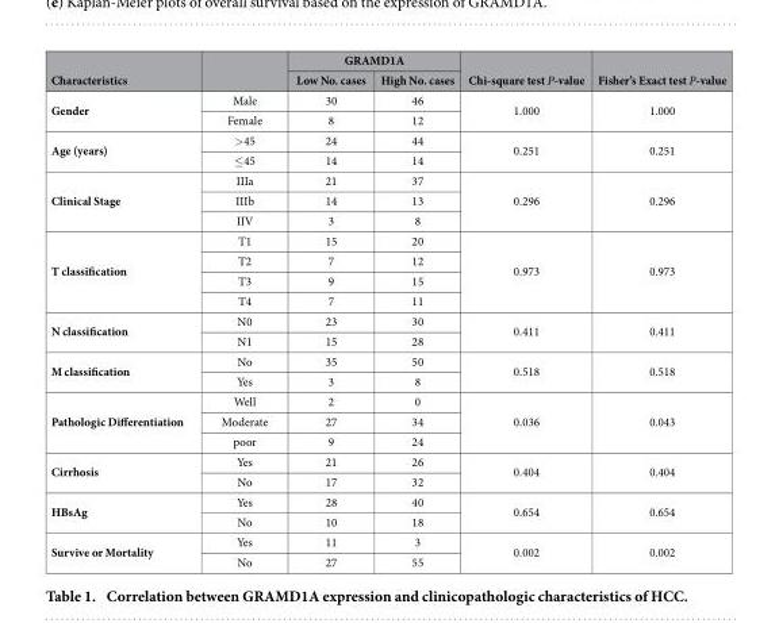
<table><thead><tr><td rowspan="2">Characteristics</td><td rowspan="2"></td><td colspan="2">GRAMD1A</td><td rowspan="2">Chi-square test P-value</td><td rowspan="2">Fisher’s Exact test P-value</td></tr><tr><td>Low No. cases</td><td>High No. cases</td></tr></thead><tbody><tr><td rowspan="2">Gender</td><td>Male</td><td>30</td><td>46</td><td rowspan="2">1.000</td><td rowspan="2">1.000</td></tr><tr><td>Female</td><td>8</td><td>12</td></tr><tr><td rowspan="2">Age (years)</td><td>&gt; 45</td><td>24</td><td>44</td><td rowspan="2">0.251</td><td rowspan="2">0.251</td></tr><tr><td>≤ 45</td><td>14</td><td>14</td></tr><tr><td rowspan="3">Clinical Stage</td><td>IIIa</td><td>21</td><td>37</td><td rowspan="3">0.296</td><td rowspan="3">0.296</td></tr><tr><td>IIIb</td><td>14</td><td>13</td></tr><tr><td>IIV</td><td>3</td><td>8</td></tr><tr><td rowspan="4">T classification</td><td>T1</td><td>15</td><td>20</td><td rowspan="4">0.973</td><td rowspan="4">0.973</td></tr><tr><td>T2</td><td>7</td><td>12</td></tr><tr><td>T3</td><td>9</td><td>15</td></tr><tr><td>T4</td><td>7</td><td>11</td></tr><tr><td rowspan="2">N classification</td><td>N0</td><td>23</td><td>30</td><td rowspan="2">0.411</td><td rowspan="2">0.411</td></tr><tr><td>N1</td><td>15</td><td>28</td></tr><tr><td rowspan="2">M classification</td><td>No</td><td>35</td><td>50</td><td rowspan="2">0.518</td><td rowspan="2">0.518</td></tr><tr><td>Yes</td><td>3</td><td>8</td></tr><tr><td rowspan="3">Pathologic Differentiation</td><td>Well</td><td>2</td><td>0</td><td rowspan="3">0.036</td><td rowspan="3">0.043</td></tr><tr><td>Moderate</td><td>27</td><td>34</td></tr><tr><td>poor</td><td>9</td><td>24</td></tr><tr><td rowspan="2">Cirrhosis</td><td>Yes</td><td>21</td><td>26</td><td rowspan="2">0.404</td><td rowspan="2">0.404</td></tr><tr><td>No</td><td>17</td><td>32</td></tr><tr><td rowspan="2">HBsAg</td><td>Yes</td><td>28</td><td>40</td><td rowspan="2">0.654</td><td rowspan="2">0.654</td></tr><tr><td>No</td><td>10</td><td>18</td></tr><tr><td rowspan="2">Survive or Mortality</td><td>Yes</td><td>11</td><td>3</td><td rowspan="2">0.002</td><td rowspan="2">0.002</td></tr><tr><td>No</td><td>27</td><td>55</td></tr></tbody></table>